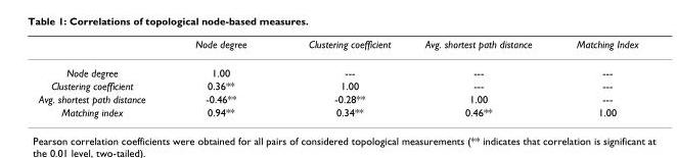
<table><thead><tr><td></td><td>Node degree</td><td>Clustering coefficient</td><td>Avg. shortest path distance</td><td>Matching Index</td></tr></thead><tbody><tr><td>Node degree</td><td>1.00</td><td>---</td><td>---</td><td>---</td></tr><tr><td>Clustering coefficient</td><td>0.36**</td><td>1.00</td><td>---</td><td>---</td></tr><tr><td>Avg. shortest path distance</td><td>-0.46**</td><td>-0.28**</td><td>1.00</td><td>---</td></tr><tr><td>Matching index</td><td>0.94**</td><td>0.34**</td><td>0.46**</td><td>1.00</td></tr></tbody></table>